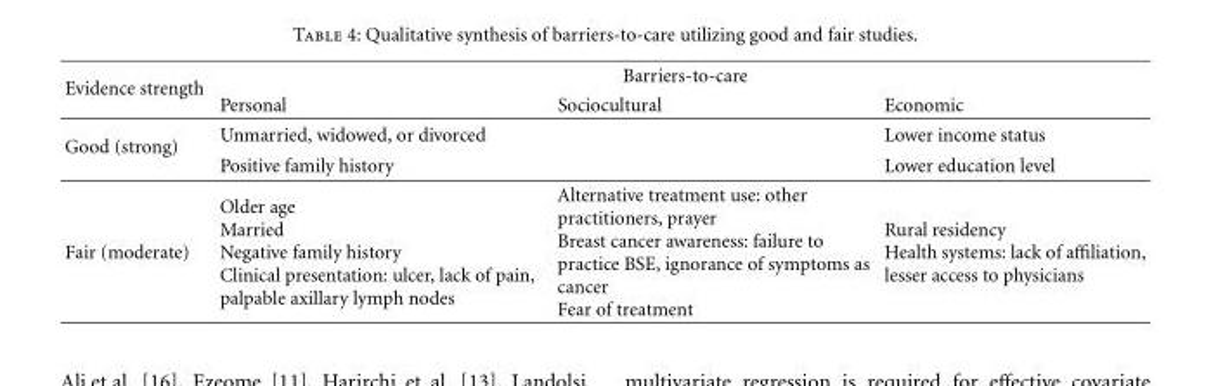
<table><thead><tr><td rowspan="2">Evidence strength</td><td colspan="3">Barriers-to-care</td></tr><tr><td>Personal</td><td>Sociocultural</td><td>Economic</td></tr></thead><tbody><tr><td rowspan="2">Good (strong)</td><td>Unmarried, widowed, or divorced</td><td></td><td>Lower income status</td></tr><tr><td>Positive family history</td><td></td><td>Lower education level</td></tr><tr><td>Fair (moderate)</td><td>Older age Married Negative family history Clinical presentation: ulcer, lack of pain, palpable axillary lymph nodes</td><td>Alternative treatment use: other practitioners, prayer Breast cancer awareness: failure to practice BSE, ignorance of symptoms as cancer Fear of treatment</td><td>Rural residency Health systems: lack of affiliation, lesser access to physicians</td></tr></tbody></table>